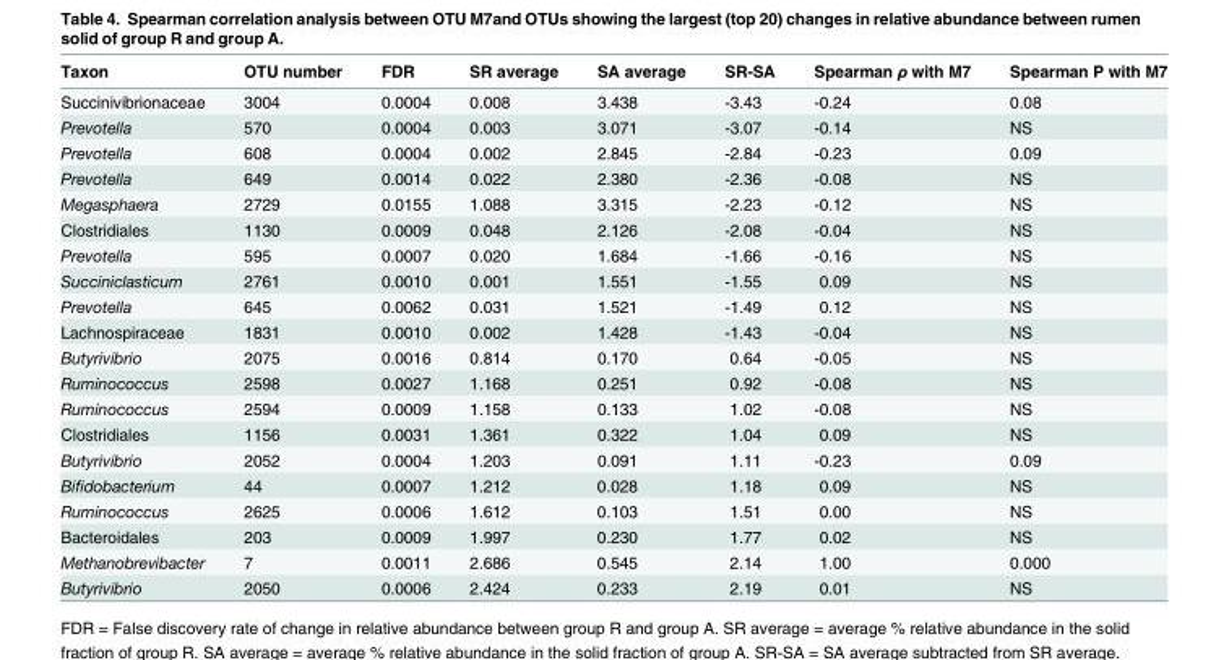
<table><thead><tr><td>Taxon</td><td>OTU number</td><td>FDR</td><td>SR average</td><td>SA average</td><td>SR-SA</td><td>Spearman ρ with M7</td><td>Spearman P with M7</td></tr></thead><tbody><tr><td>Succinivibrionaceae</td><td>3004</td><td>0.0004</td><td>0.008</td><td>3.438</td><td>-3.43</td><td>-0.24</td><td>0.08</td></tr><tr><td>Prevotella</td><td>570</td><td>0.0004</td><td>0.003</td><td>3.071</td><td>-3.07</td><td>-0.14</td><td>NS</td></tr><tr><td>Prevotella</td><td>608</td><td>0.0004</td><td>0.002</td><td>2.845</td><td>-2.84</td><td>-0.23</td><td>0.09</td></tr><tr><td>Prevotella</td><td>649</td><td>0.0014</td><td>0.022</td><td>2.380</td><td>-2.36</td><td>-0.08</td><td>NS</td></tr><tr><td>Megasphaera</td><td>2729</td><td>0.0155</td><td>1.088</td><td>3.315</td><td>-2.23</td><td>-0.12</td><td>NS</td></tr><tr><td>Clostridiales</td><td>1130</td><td>0.0009</td><td>0.048</td><td>2.126</td><td>-2.08</td><td>-0.04</td><td>NS</td></tr><tr><td>Prevotella</td><td>595</td><td>0.0007</td><td>0.020</td><td>1.684</td><td>-1.66</td><td>-0.16</td><td>NS</td></tr><tr><td>Succiniclasticum</td><td>2761</td><td>0.0010</td><td>0.001</td><td>1.551</td><td>-1.55</td><td>0.09</td><td>NS</td></tr><tr><td>Prevotella</td><td>645</td><td>0.0062</td><td>0.031</td><td>1.521</td><td>-1.49</td><td>0.12</td><td>NS</td></tr><tr><td>Lachnospiraceae</td><td>1831</td><td>0.0010</td><td>0.002</td><td>1.428</td><td>-1.43</td><td>-0.04</td><td>NS</td></tr><tr><td>Butyrivibrio</td><td>2075</td><td>0.0016</td><td>0.814</td><td>0.170</td><td>0.64</td><td>-0.05</td><td>NS</td></tr><tr><td>Ruminococcus</td><td>2598</td><td>0.0027</td><td>1.168</td><td>0.251</td><td>0.92</td><td>-0.08</td><td>NS</td></tr><tr><td>Ruminococcus</td><td>2594</td><td>0.0009</td><td>1.158</td><td>0.133</td><td>1.02</td><td>-0.08</td><td>NS</td></tr><tr><td>Clostridiales</td><td>1156</td><td>0.0031</td><td>1.361</td><td>0.322</td><td>1.04</td><td>0.09</td><td>NS</td></tr><tr><td>Butyrivibrio</td><td>2052</td><td>0.0004</td><td>1.203</td><td>0.091</td><td>1.11</td><td>-0.23</td><td>0.09</td></tr><tr><td>Bifidobacterium</td><td>44</td><td>0.0007</td><td>1.212</td><td>0.028</td><td>1.18</td><td>0.09</td><td>NS</td></tr><tr><td>Ruminococcus</td><td>2625</td><td>0.0006</td><td>1.612</td><td>0.103</td><td>1.51</td><td>0.00</td><td>NS</td></tr><tr><td>Bacteroidales</td><td>203</td><td>0.0009</td><td>1.997</td><td>0.230</td><td>1.77</td><td>0.02</td><td>NS</td></tr><tr><td>Methanobrevibacter</td><td>7</td><td>0.0011</td><td>2.686</td><td>0.545</td><td>2.14</td><td>1.00</td><td>0.000</td></tr><tr><td>Butyrivibrio</td><td>2050</td><td>0.0006</td><td>2.424</td><td>0.233</td><td>2.19</td><td>0.01</td><td>NS</td></tr></tbody></table>